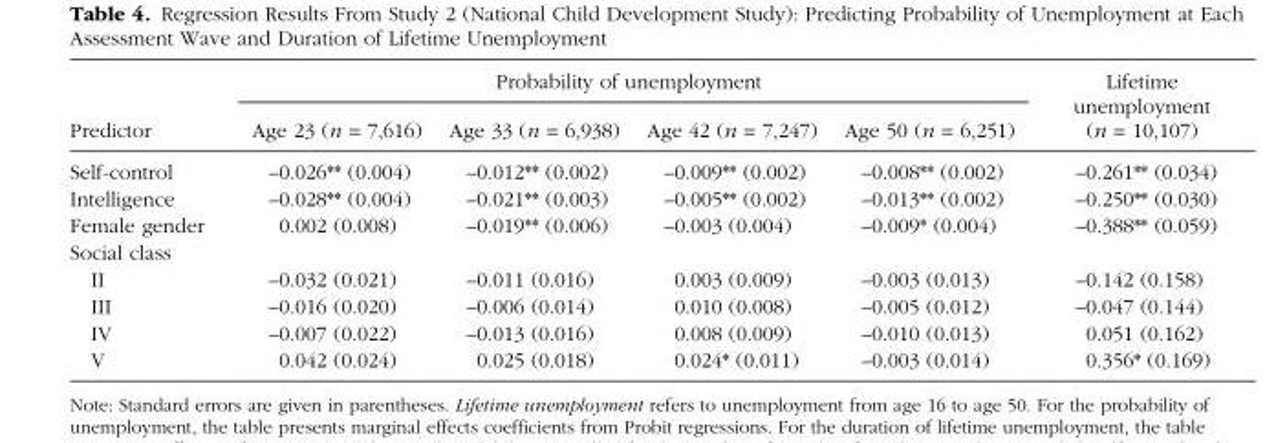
<table><thead><tr><td rowspan="2">Predictor</td><td colspan="4">Probability of unemployment</td><td rowspan="2">Lifetime unemployment (n = 10,107)</td></tr><tr><td>Age 23 (n = 7,616)</td><td>Age 33 (n = 6,938)</td><td>Age 42 (n = 7,247)</td><td>Age 50 (n = 6,251)</td></tr></thead><tbody><tr><td>Self-control</td><td>–0.026** (0.004)</td><td>–0.012** (0.002)</td><td>–0.009** (0.002)</td><td>–0.008** (0.002)</td><td>–0.261** (0.034)</td></tr><tr><td>Intelligence</td><td>–0.028** (0.004)</td><td>–0.021** (0.003)</td><td>–0.005** (0.002)</td><td>–0.013** (0.002)</td><td>–0.250** (0.030)</td></tr><tr><td>Female gender</td><td>0.002 (0.008)</td><td>–0.019** (0.006)</td><td>–0.003 (0.004)</td><td>–0.009* (0.004)</td><td>–0.388** (0.059)</td></tr><tr><td colspan="6">Social class</td></tr><tr><td>II</td><td>–0.032 (0.021)</td><td>–0.011 (0.016)</td><td>0.003 (0.009)</td><td>–0.003 (0.013)</td><td>–0.142 (0.158)</td></tr><tr><td>III</td><td>–0.016 (0.020)</td><td>–0.006 (0.014)</td><td>0.010 (0.008)</td><td>–0.005 (0.012)</td><td>–0.047 (0.144)</td></tr><tr><td>IV</td><td>–0.007 (0.022)</td><td>–0.013 (0.016)</td><td>0.008 (0.009)</td><td>–0.010 (0.013)</td><td>0.051 (0.162)</td></tr><tr><td>V</td><td>0.042 (0.024)</td><td>0.025 (0.018)</td><td>0.024* (0.011)</td><td>–0.003 (0.014)</td><td>0.356* (0.169)</td></tr></tbody></table>